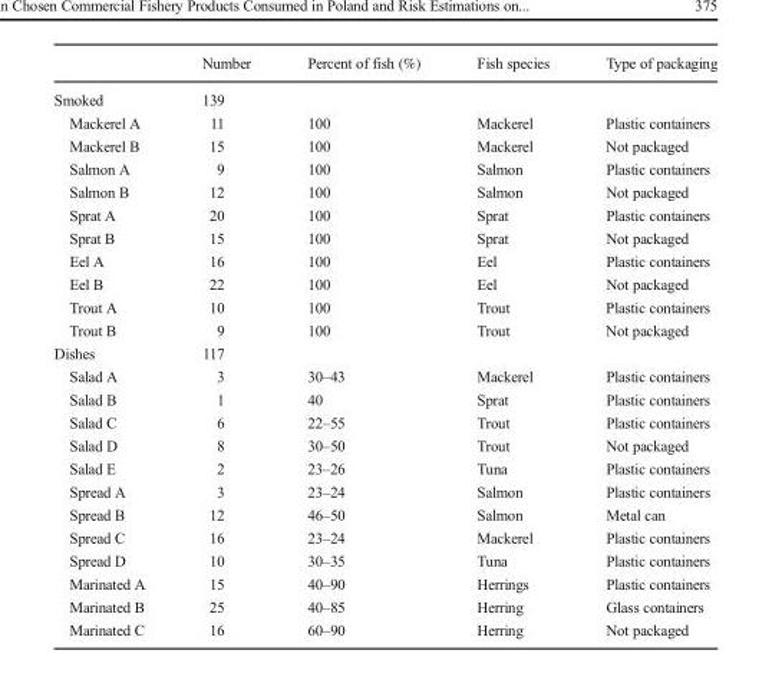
<table><thead><tr><td></td><td>Number</td><td>Percent of fish (%)</td><td>Fish species</td><td>Type of packaging</td></tr></thead><tbody><tr><td>Smoked</td><td>139</td><td></td><td></td><td></td></tr><tr><td>Mackerel A</td><td>11</td><td>100</td><td>Mackerel</td><td>Plastic containers</td></tr><tr><td>Mackerel B</td><td>15</td><td>100</td><td>Mackerel</td><td>Not packaged</td></tr><tr><td>Salmon A</td><td>9</td><td>100</td><td>Salmon</td><td>Plastic containers</td></tr><tr><td>Salmon B</td><td>12</td><td>100</td><td>Salmon</td><td>Not packaged</td></tr><tr><td>Sprat A</td><td>20</td><td>100</td><td>Sprat</td><td>Plastic containers</td></tr><tr><td>Sprat B</td><td>15</td><td>100</td><td>Sprat</td><td>Not packaged</td></tr><tr><td>Eel A</td><td>16</td><td>100</td><td>Eel</td><td>Plastic containers</td></tr><tr><td>Eel B</td><td>22</td><td>100</td><td>Eel</td><td>Not packaged</td></tr><tr><td>Trout A</td><td>10</td><td>100</td><td>Trout</td><td>Plastic containers</td></tr><tr><td>Trout B</td><td>9</td><td>100</td><td>Trout</td><td>Not packaged</td></tr><tr><td>Dishes</td><td>117</td><td></td><td></td><td></td></tr><tr><td>Salad A</td><td>3</td><td>30–43</td><td>Mackerel</td><td>Plastic containers</td></tr><tr><td>Salad B</td><td>1</td><td>40</td><td>Sprat</td><td>Plastic containers</td></tr><tr><td>Salad C</td><td>6</td><td>22–55</td><td>Trout</td><td>Plastic containers</td></tr><tr><td>Salad D</td><td>8</td><td>30–50</td><td>Trout</td><td>Not packaged</td></tr><tr><td>Salad E</td><td>2</td><td>23–26</td><td>Tuna</td><td>Plastic containers</td></tr><tr><td>Spread A</td><td>3</td><td>23–24</td><td>Salmon</td><td>Plastic containers</td></tr><tr><td>Spread B</td><td>12</td><td>46–50</td><td>Salmon</td><td>Metal can</td></tr><tr><td>Spread C</td><td>16</td><td>23–24</td><td>Mackerel</td><td>Plastic containers</td></tr><tr><td>Spread D</td><td>10</td><td>30–35</td><td>Tuna</td><td>Plastic containers</td></tr><tr><td>Marinated A</td><td>15</td><td>40–90</td><td>Herrings</td><td>Plastic containers</td></tr><tr><td>Marinated B</td><td>25</td><td>40–85</td><td>Herring</td><td>Glass containers</td></tr><tr><td>Marinated C</td><td>16</td><td>60–90</td><td>Herring</td><td>Not packaged</td></tr></tbody></table>